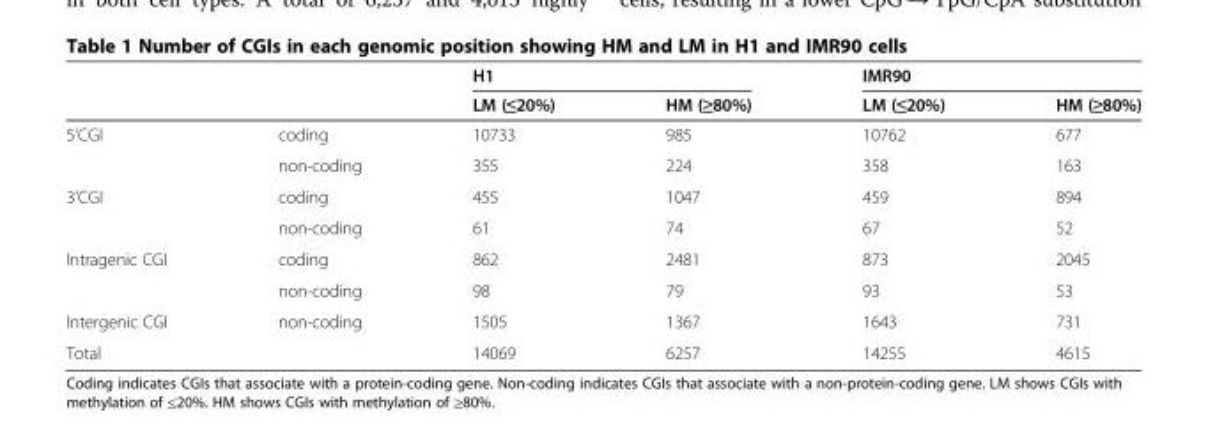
<table><thead><tr><td rowspan="2"></td><td rowspan="2"></td><td colspan="2">H1</td><td colspan="2">IMR90</td></tr><tr><td>LM (≤20%)</td><td>HM (≥80%)</td><td>LM (≤20%)</td><td>HM (≥80%)</td></tr></thead><tbody><tr><td rowspan="2">5&#x27;CGI</td><td>coding</td><td>10733</td><td>985</td><td>10762</td><td>677</td></tr><tr><td>non-coding</td><td>355</td><td>224</td><td>358</td><td>163</td></tr><tr><td rowspan="2">3&#x27;CGI</td><td>coding</td><td>455</td><td>1047</td><td>459</td><td>894</td></tr><tr><td>non-coding</td><td>61</td><td>74</td><td>67</td><td>52</td></tr><tr><td rowspan="2">Intragenic CGI</td><td>coding</td><td>862</td><td>2481</td><td>873</td><td>2045</td></tr><tr><td>non-coding</td><td>98</td><td>79</td><td>93</td><td>53</td></tr><tr><td>Intergenic CGI</td><td>non-coding</td><td>1505</td><td>1367</td><td>1643</td><td>731</td></tr><tr><td colspan="2">Total</td><td>14069</td><td>6257</td><td>14255</td><td>4615</td></tr></tbody></table>